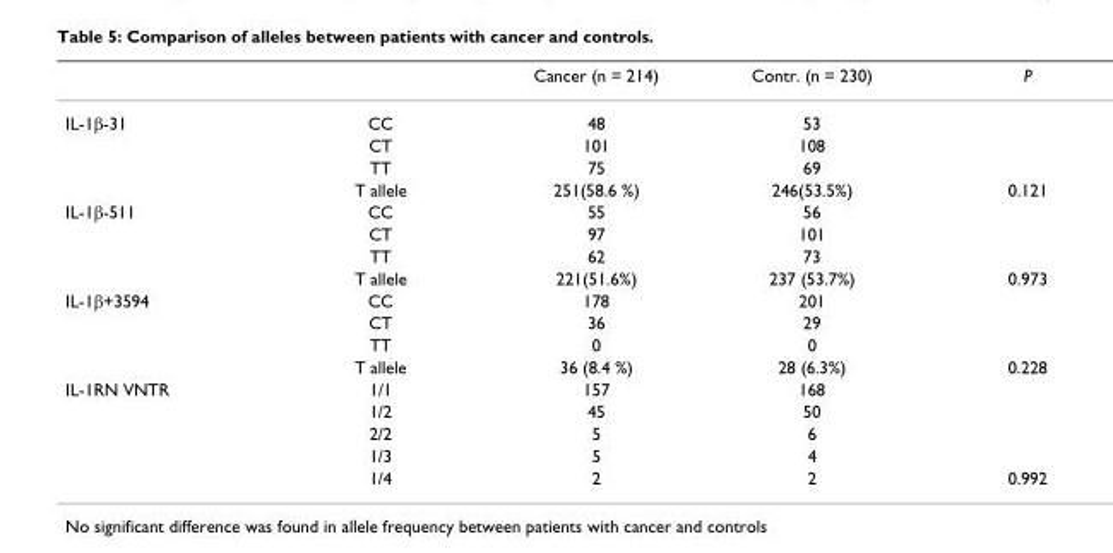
<table><thead><tr><td></td><td></td><td>Cancer (n = 214)</td><td>Contr. (n = 230)</td><td>P</td></tr></thead><tbody><tr><td rowspan="4">IL-1β-31</td><td>CC</td><td>48</td><td>53</td><td></td></tr><tr><td>CT</td><td>101</td><td>108</td><td></td></tr><tr><td>TT</td><td>75</td><td>69</td><td></td></tr><tr><td>T allele</td><td>251(58.6 %)</td><td>246(53.5%)</td><td>0.121</td></tr><tr><td rowspan="4">IL-1β-511</td><td>CC</td><td>55</td><td>56</td><td></td></tr><tr><td>CT</td><td>97</td><td>101</td><td></td></tr><tr><td>TT</td><td>62</td><td>73</td><td></td></tr><tr><td>T allele</td><td>221(51.6%)</td><td>237 (53.7%)</td><td>0.973</td></tr><tr><td rowspan="4">IL-1β+3594</td><td>CC</td><td>178</td><td>201</td><td></td></tr><tr><td>CT</td><td>36</td><td>29</td><td></td></tr><tr><td>TT</td><td>0</td><td>0</td><td></td></tr><tr><td>T allele</td><td>36 (8.4 %)</td><td>28 (6.3%)</td><td>0.228</td></tr><tr><td rowspan="5">IL-1RN VNTR</td><td>1/1</td><td>157</td><td>168</td><td></td></tr><tr><td>1/2</td><td>45</td><td>50</td><td></td></tr><tr><td>2/2</td><td>5</td><td>6</td><td></td></tr><tr><td>1/3</td><td>5</td><td>4</td><td></td></tr><tr><td>1/4</td><td>2</td><td>2</td><td>0.992</td></tr></tbody></table>